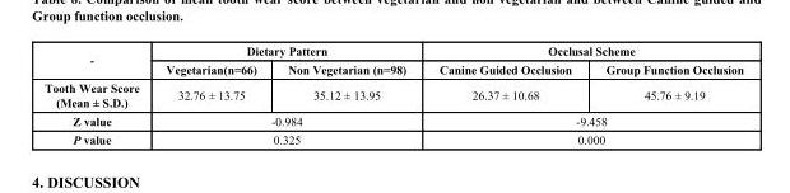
<table><thead><tr><td rowspan="2">-</td><td colspan="2">Dietary Pattern</td><td colspan="2">Occlusal Scheme</td></tr><tr><td>Vegetarian(n=66)</td><td>Non Vegetarian (n=98)</td><td>Canine Guided Occlusion</td><td>Group Function Occlusion</td></tr></thead><tbody><tr><td>Tooth Wear Score (Mean ± S.D.)</td><td>32.76 ± 13.75</td><td>35.12 ± 13.95</td><td>26.37 ± 10.68</td><td>45.76 ± 9.19</td></tr><tr><td>Z value</td><td colspan="2">-0.984</td><td colspan="2">-9.458</td></tr><tr><td>P value</td><td colspan="2">0.325</td><td colspan="2">0.000</td></tr></tbody></table>